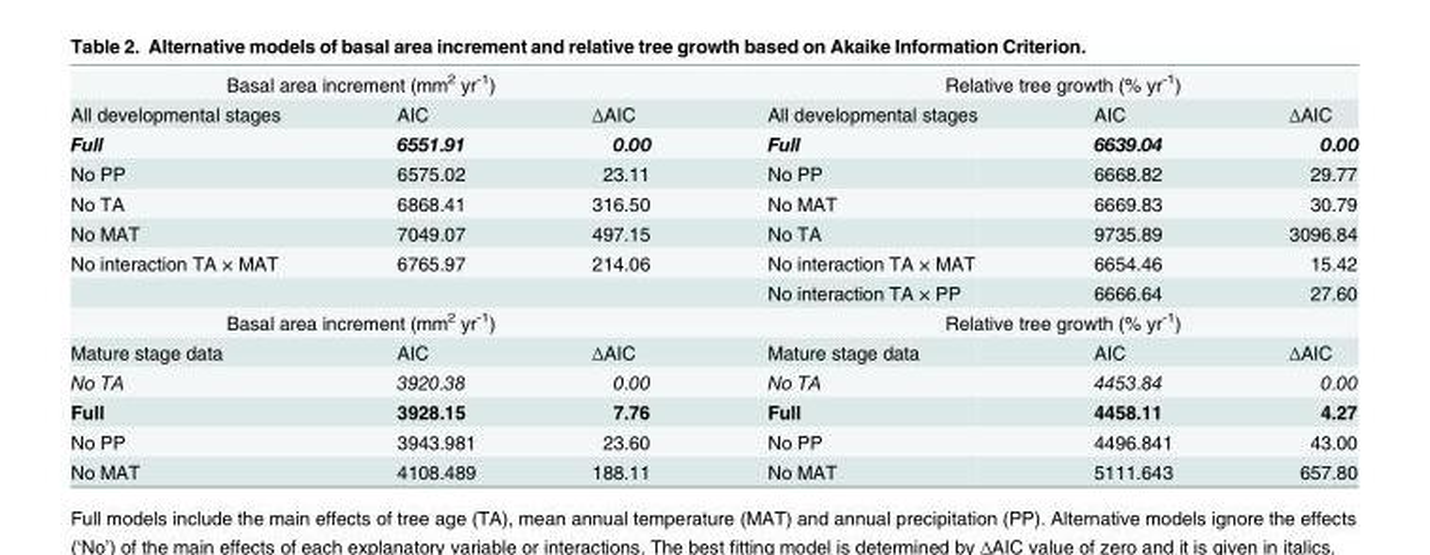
<table><tbody><tr><td colspan="3">Basal area increment (mm<sup>2</sup> yr<sup>-1</sup>)</td><td colspan="3">Relative tree growth (% yr<sup>-1</sup>)</td></tr><tr><td>All developmental stages</td><td>AIC</td><td>ΔAIC</td><td>All developmental stages</td><td>AIC</td><td>ΔAIC</td></tr><tr><td>Full</td><td>6551.91</td><td>0.00</td><td>Full</td><td>6639.04</td><td>0.00</td></tr><tr><td>No PP</td><td>6575.02</td><td>23.11</td><td>No PP</td><td>6668.82</td><td>29.77</td></tr><tr><td>No TA</td><td>6868.41</td><td>316.50</td><td>No MAT</td><td>6669.83</td><td>30.79</td></tr><tr><td>No MAT</td><td>7049.07</td><td>497.15</td><td>No TA</td><td>9735.89</td><td>3096.84</td></tr><tr><td rowspan="2">No interaction TA × MAT</td><td>6765.97</td><td>214.06</td><td>No interaction TA × MAT</td><td>6654.46</td><td>15.42</td></tr><tr><td></td><td></td><td>No interaction TA × PP</td><td>6666.64</td><td>27.60</td></tr><tr><td colspan="3">Basal area increment (mm<sup>2</sup> yr<sup>-1</sup>)</td><td colspan="3">Relative tree growth (% yr<sup>-1</sup>)</td></tr><tr><td>Mature stage data</td><td>AIC</td><td>ΔAIC</td><td>Mature stage data</td><td>AIC</td><td>ΔAIC</td></tr><tr><td>No TA</td><td>3920.38</td><td>0.00</td><td>No TA</td><td>4453.84</td><td>0.00</td></tr><tr><td>Full</td><td>3928.15</td><td>7.76</td><td>Full</td><td>4458.11</td><td>4.27</td></tr><tr><td>No PP</td><td>3943.981</td><td>23.60</td><td>No PP</td><td>4496.841</td><td>43.00</td></tr><tr><td>No MAT</td><td>4108.489</td><td>188.11</td><td>No MAT</td><td>5111.643</td><td>657.80</td></tr></tbody></table>